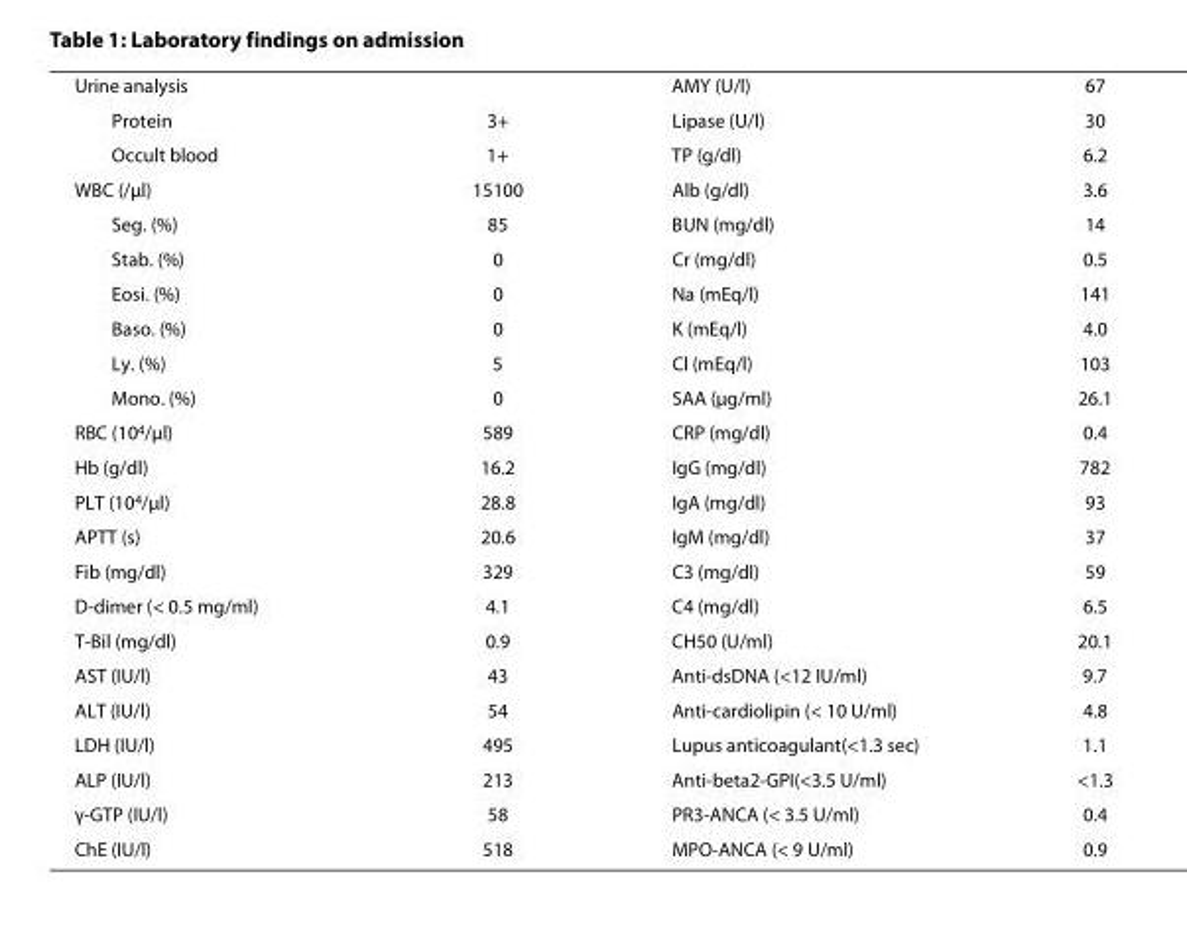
<table><tbody><tr><td>Urine analysis</td><td></td><td>AMY (U/l)</td><td>67</td></tr><tr><td>Protein</td><td>3+</td><td>Lipase (U/l)</td><td>30</td></tr><tr><td>Occult blood</td><td>1+</td><td>TP (g/dl)</td><td>6.2</td></tr><tr><td>WBC (/μl)</td><td>15100</td><td>Alb (g/dl)</td><td>3.6</td></tr><tr><td>Seg. (%)</td><td>85</td><td>BUN (mg/dl)</td><td>14</td></tr><tr><td>Stab. (%)</td><td>0</td><td>Cr (mg/dl)</td><td>0.5</td></tr><tr><td>Eosi. (%)</td><td>0</td><td>Na (mEq/l)</td><td>141</td></tr><tr><td>Baso. (%)</td><td>0</td><td>K (mEq/l)</td><td>4.0</td></tr><tr><td>Ly. (%)</td><td>5</td><td>Cl (mEq/l)</td><td>103</td></tr><tr><td>Mono. (%)</td><td>0</td><td>SAA (μg/ml)</td><td>26.1</td></tr><tr><td>RBC (10<sup>4</sup>/μl)</td><td>589</td><td>CRP (mg/dl)</td><td>0.4</td></tr><tr><td>Hb (g/dl)</td><td>16.2</td><td>IgG (mg/dl)</td><td>782</td></tr><tr><td>PLT (10<sup>4</sup>/μl)</td><td>28.8</td><td>IgA (mg/dl)</td><td>93</td></tr><tr><td>APTT (s)</td><td>20.6</td><td>IgM (mg/dl)</td><td>37</td></tr><tr><td>Fib (mg/dl)</td><td>329</td><td>C3 (mg/dl)</td><td>59</td></tr><tr><td>D-dimer (&lt; 0.5 mg/ml)</td><td>4.1</td><td>C4 (mg/dl)</td><td>6.5</td></tr><tr><td>T-Bil (mg/dl)</td><td>0.9</td><td>CH50 (U/ml)</td><td>20.1</td></tr><tr><td>AST (IU/l)</td><td>43</td><td>Anti-dsDNA (&lt;12 IU/ml)</td><td>9.7</td></tr><tr><td>ALT (IU/l)</td><td>54</td><td>Anti-cardiolipin (&lt; 10 U/ml)</td><td>4.8</td></tr><tr><td>LDH (IU/l)</td><td>495</td><td>Lupus anticoagulant(&lt;1.3 sec)</td><td>1.1</td></tr><tr><td>ALP (IU/l)</td><td>213</td><td>Anti-beta2-GPI(&lt;3.5 U/ml)</td><td>&lt;1.3</td></tr><tr><td>γ-GTP (IU/l)</td><td>58</td><td>PR3-ANCA (&lt; 3.5 U/ml)</td><td>0.4</td></tr><tr><td>ChE (IU/l)</td><td>518</td><td>MPO-ANCA (&lt; 9 U/ml)</td><td>0.9</td></tr></tbody></table>